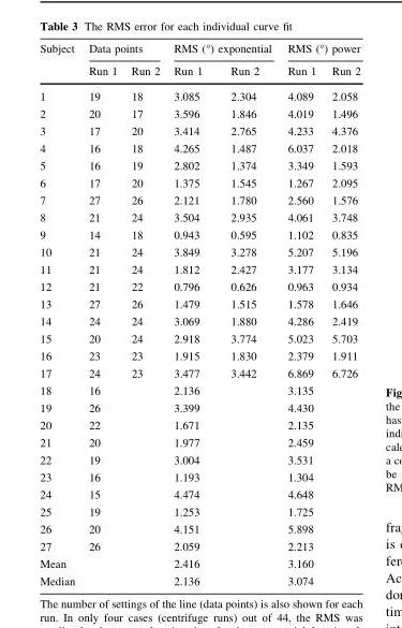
<table><thead><tr><td rowspan="2">Subject</td><td colspan="2">Data points</td><td colspan="2">RMS (°) exponential</td><td colspan="2">RMS (°) power</td></tr><tr><td>Run 1</td><td>Run 2</td><td>Run 1</td><td>Run 2</td><td>Run 1</td><td>Run 2</td></tr></thead><tbody><tr><td>1</td><td>19</td><td>18</td><td>3.085</td><td>2.304</td><td>4.089</td><td>2.058</td></tr><tr><td>2</td><td>20</td><td>17</td><td>3.596</td><td>1.846</td><td>4.019</td><td>1.496</td></tr><tr><td>3</td><td>17</td><td>20</td><td>3.414</td><td>2.765</td><td>4.233</td><td>4.376</td></tr><tr><td>4</td><td>16</td><td>18</td><td>4.265</td><td>1.487</td><td>6.037</td><td>2.018</td></tr><tr><td>5</td><td>16</td><td>19</td><td>2.802</td><td>1.374</td><td>3.349</td><td>1.593</td></tr><tr><td>6</td><td>17</td><td>20</td><td>1.375</td><td>1.545</td><td>1.267</td><td>2.095</td></tr><tr><td>7</td><td>27</td><td>26</td><td>2.121</td><td>1.780</td><td>2.560</td><td>1.576</td></tr><tr><td>8</td><td>21</td><td>24</td><td>3.504</td><td>2.935</td><td>4.061</td><td>3.748</td></tr><tr><td>9</td><td>14</td><td>18</td><td>0.943</td><td>0.595</td><td>1.102</td><td>0.835</td></tr><tr><td>10</td><td>21</td><td>24</td><td>3.849</td><td>3.278</td><td>5.207</td><td>5.196</td></tr><tr><td>11</td><td>21</td><td>24</td><td>1.812</td><td>2.427</td><td>3.177</td><td>3.134</td></tr><tr><td>12</td><td>21</td><td>22</td><td>0.796</td><td>0.626</td><td>0.963</td><td>0.934</td></tr><tr><td>13</td><td>27</td><td>26</td><td>1.479</td><td>1.515</td><td>1.578</td><td>1.646</td></tr><tr><td>14</td><td>24</td><td>24</td><td>3.069</td><td>1.880</td><td>4.286</td><td>2.419</td></tr><tr><td>15</td><td>20</td><td>24</td><td>2.918</td><td>3.774</td><td>5.023</td><td>5.703</td></tr><tr><td>16</td><td>23</td><td>23</td><td>1.915</td><td>1.830</td><td>2.379</td><td>1.911</td></tr><tr><td>17</td><td>24</td><td>23</td><td>3.477</td><td>3.442</td><td>6.869</td><td>6.726</td></tr><tr><td>18</td><td colspan="2">16</td><td colspan="2">2.136</td><td colspan="2">3.135</td></tr><tr><td>19</td><td colspan="2">26</td><td colspan="2">3.399</td><td colspan="2">4.430</td></tr><tr><td>20</td><td colspan="2">22</td><td colspan="2">1.671</td><td colspan="2">2.135</td></tr><tr><td>21</td><td colspan="2">20</td><td colspan="2">1.977</td><td colspan="2">2.459</td></tr><tr><td>22</td><td colspan="2">19</td><td colspan="2">3.004</td><td colspan="2">3.531</td></tr><tr><td>23</td><td colspan="2">16</td><td colspan="2">1.193</td><td colspan="2">1.304</td></tr><tr><td>24</td><td colspan="2">15</td><td colspan="2">4.474</td><td colspan="2">4.648</td></tr><tr><td>25</td><td colspan="2">19</td><td colspan="2">1.253</td><td colspan="2">1.725</td></tr><tr><td>26</td><td colspan="2">20</td><td colspan="2">4.151</td><td colspan="2">5.898</td></tr><tr><td>27</td><td colspan="2">26</td><td colspan="2">2.059</td><td colspan="2">2.213</td></tr><tr><td>Mean</td><td colspan="2"></td><td colspan="2">2.416</td><td colspan="2">3.160</td></tr><tr><td>Median</td><td colspan="2"></td><td colspan="2">2.136</td><td colspan="2">3.074</td></tr></tbody></table>